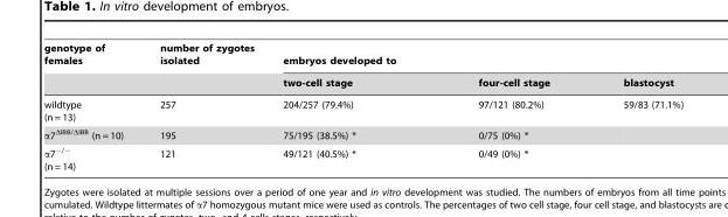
<table><thead><tr><td rowspan="2">genotype of females</td><td rowspan="2">number of zygotes isolated</td><td colspan="3">embryos developed to</td></tr><tr><td>two-cell stage</td><td>four-cell stage</td><td>blastocyst</td></tr></thead><tbody><tr><td>wildtype (n = 13)</td><td>257</td><td>204/257 (79.4%)</td><td>97/121 (80.2%)</td><td>59/83 (71.1%)</td></tr><tr><td>α7<sup>ΔIBB/ΔIBB</sup> (n = 10)</td><td>195</td><td>75/195 (38.5%) *</td><td>0/75 (0%) *</td><td></td></tr><tr><td>α7<sup>−/−</sup> (n = 14)</td><td>121</td><td>49/121 (40.5%) *</td><td>0/49 (0%) *</td><td></td></tr></tbody></table>